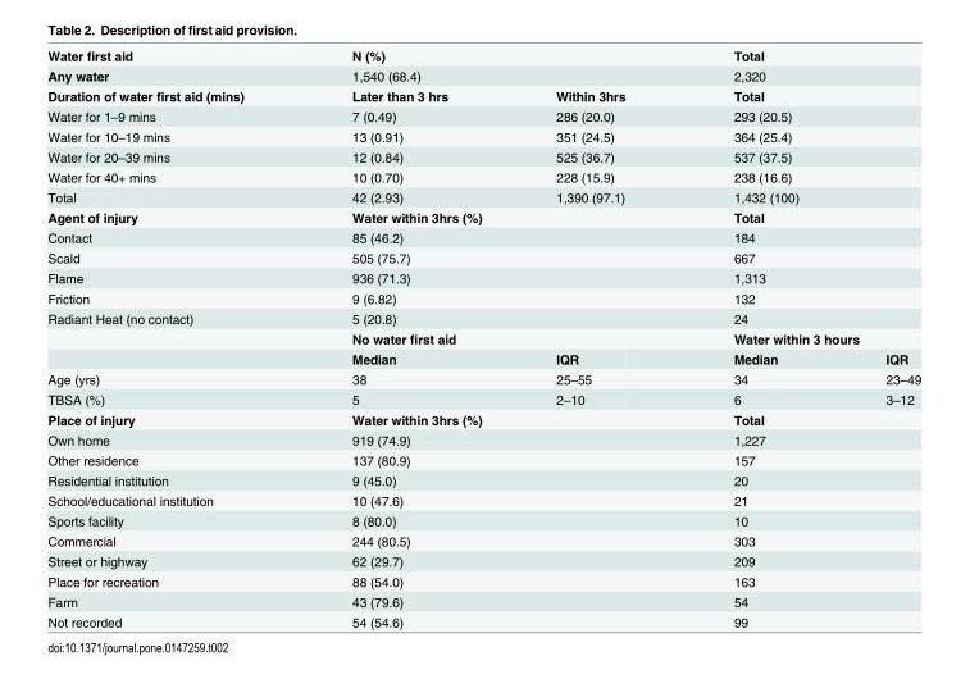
<table><tbody><tr><td>Water first aid</td><td colspan="2">N (%)</td><td colspan="2">Total</td></tr><tr><td>Any water</td><td colspan="2">1,540 (68.4)</td><td colspan="2">2,320</td></tr><tr><td>Duration of water first aid (mins)</td><td>Later than 3 hrs</td><td>Within 3hrs</td><td colspan="2">Total</td></tr><tr><td>Water for 1–9 mins</td><td>7 (0.49)</td><td>286 (20.0)</td><td colspan="2">293 (20.5)</td></tr><tr><td>Water for 10–19 mins</td><td>13 (0.91)</td><td>351 (24.5)</td><td colspan="2">364 (25.4)</td></tr><tr><td>Water for 20–39 mins</td><td>12 (0.84)</td><td>525 (36.7)</td><td colspan="2">537 (37.5)</td></tr><tr><td>Water for 40+ mins</td><td>10 (0.70)</td><td>228 (15.9)</td><td colspan="2">238 (16.6)</td></tr><tr><td>Total</td><td>42 (2.93)</td><td>1,390 (97.1)</td><td colspan="2">1,432 (100)</td></tr><tr><td>Agent of injury</td><td colspan="2">Water within 3hrs (%)</td><td colspan="2">Total</td></tr><tr><td>Contact</td><td colspan="2">85 (46.2)</td><td colspan="2">184</td></tr><tr><td>Scald</td><td colspan="2">505 (75.7)</td><td colspan="2">667</td></tr><tr><td>Flame</td><td colspan="2">936 (71.3)</td><td colspan="2">1,313</td></tr><tr><td>Friction</td><td colspan="2">9 (6.82)</td><td colspan="2">132</td></tr><tr><td rowspan="3">Radiant Heat (no contact)</td><td colspan="2">5 (20.8)</td><td colspan="2">24</td></tr><tr><td colspan="2">No water first aid</td><td colspan="2">Water within 3 hours</td></tr><tr><td>Median</td><td>IQR</td><td>Median</td><td>IQR</td></tr><tr><td>Age (yrs)</td><td>38</td><td>25–55</td><td>34</td><td>23–49</td></tr><tr><td>TBSA (%)</td><td>5</td><td>2–10</td><td>6</td><td>3–12</td></tr><tr><td>Place of injury</td><td colspan="2">Water within 3hrs (%)</td><td colspan="2">Total</td></tr><tr><td>Own home</td><td colspan="2">919 (74.9)</td><td colspan="2">1,227</td></tr><tr><td>Other residence</td><td colspan="2">137 (80.9)</td><td colspan="2">157</td></tr><tr><td>Residential institution</td><td colspan="2">9 (45.0)</td><td colspan="2">20</td></tr><tr><td>School/educational institution</td><td colspan="2">10 (47.6)</td><td colspan="2">21</td></tr><tr><td>Sports facility</td><td colspan="2">8 (80.0)</td><td colspan="2">10</td></tr><tr><td>Commercial</td><td colspan="2">244 (80.5)</td><td colspan="2">303</td></tr><tr><td>Street or highway</td><td colspan="2">62 (29.7)</td><td colspan="2">209</td></tr><tr><td>Place for recreation</td><td colspan="2">88 (54.0)</td><td colspan="2">163</td></tr><tr><td>Farm</td><td colspan="2">43 (79.6)</td><td colspan="2">54</td></tr><tr><td>Not recorded</td><td colspan="2">54 (54.6)</td><td colspan="2">99</td></tr></tbody></table>